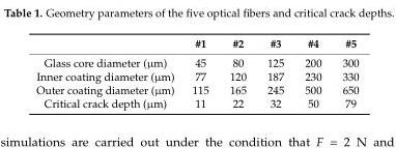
<table><thead><tr><td></td><td>#1</td><td>#2</td><td>#3</td><td>#4</td><td>#5</td></tr></thead><tbody><tr><td>Glass core diameter (µm)</td><td>45</td><td>80</td><td>125</td><td>200</td><td>300</td></tr><tr><td>Inner coating diameter (µm)</td><td>77</td><td>120</td><td>187</td><td>230</td><td>330</td></tr><tr><td>Outer coating diameter (µm)</td><td>115</td><td>165</td><td>245</td><td>500</td><td>650</td></tr><tr><td>Critical crack depth (µm)</td><td>11</td><td>22</td><td>32</td><td>50</td><td>79</td></tr></tbody></table>